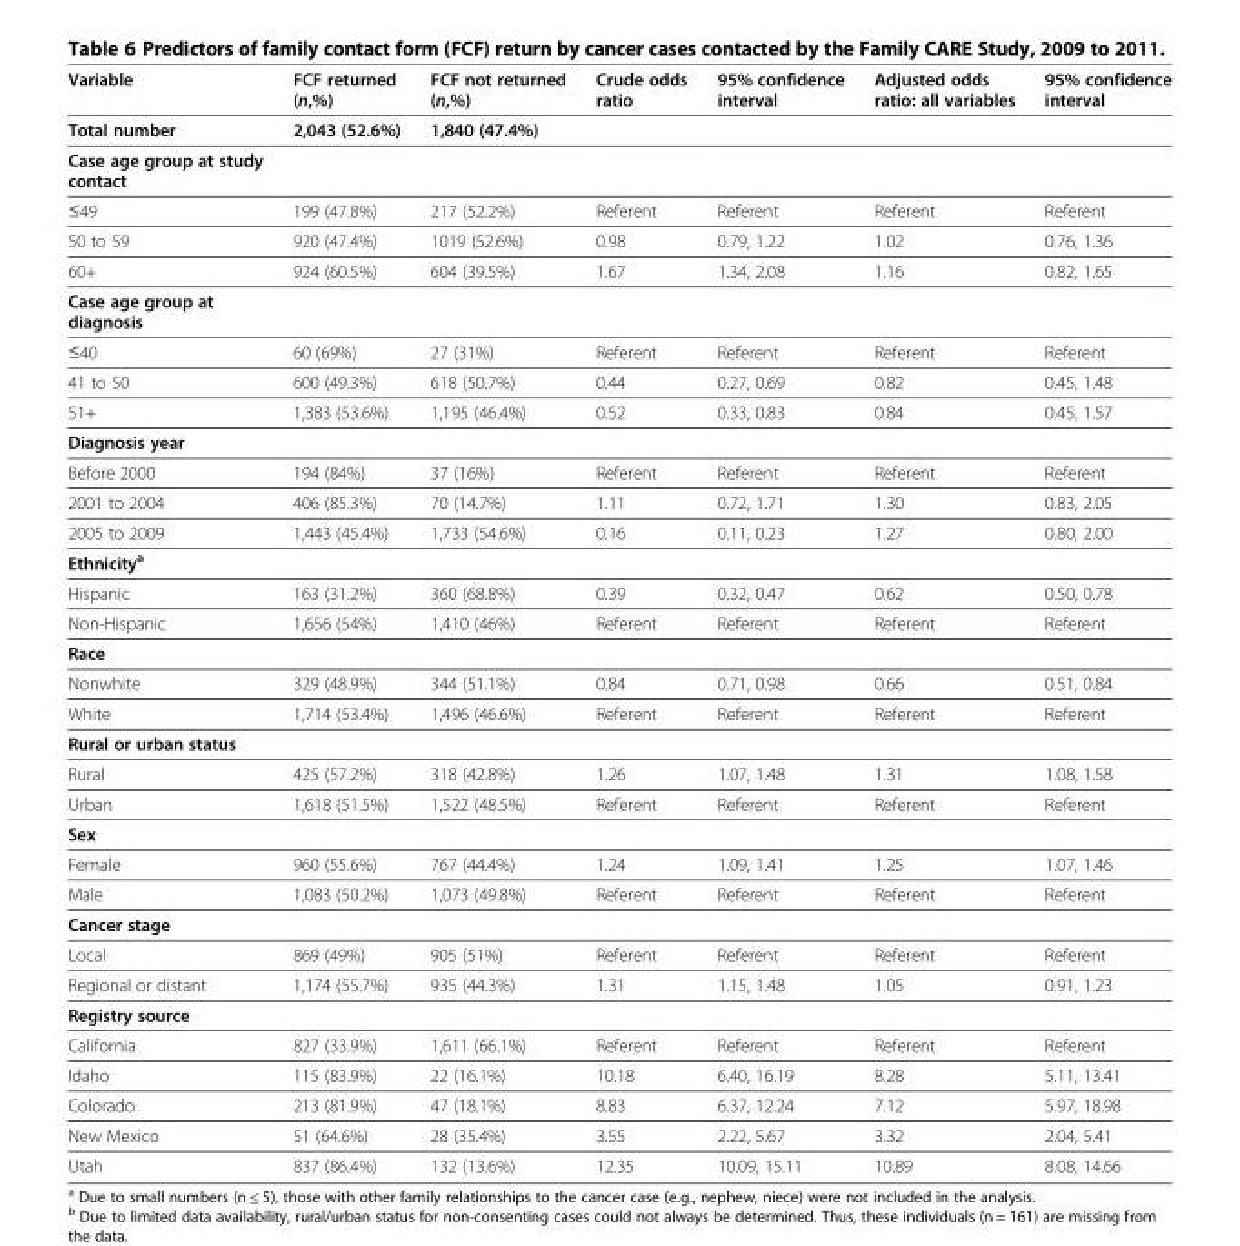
<table><thead><tr><td>Variable</td><td>FCF returned (n,%)</td><td>FCF not returned (n,%)</td><td>Crude odds ratio</td><td>95% confidence interval</td><td>Adjusted odds ratio: all variables</td><td>95% confidence interval</td></tr></thead><tbody><tr><td>Total number</td><td>2,043 (52.6%)</td><td>1,840 (47.4%)</td><td></td><td></td><td></td><td></td></tr><tr><td colspan="7">Case age group at study contact</td></tr><tr><td>≤49</td><td>199 (47.8%)</td><td>217 (52.2%)</td><td>Referent</td><td>Referent</td><td>Referent</td><td>Referent</td></tr><tr><td>50 to 59</td><td>920 (47.4%)</td><td>1019 (52.6%)</td><td>0.98</td><td>0.79, 1.22</td><td>1.02</td><td>0.76, 1.36</td></tr><tr><td>60+</td><td>924 (60.5%)</td><td>604 (39.5%)</td><td>1.67</td><td>1.34, 2.08</td><td>1.16</td><td>0.82, 1.65</td></tr><tr><td colspan="7">Case age group at diagnosis</td></tr><tr><td>≤40</td><td>60 (69%)</td><td>27 (31%)</td><td>Referent</td><td>Referent</td><td>Referent</td><td>Referent</td></tr><tr><td>41 to 50</td><td>600 (49.3%)</td><td>618 (50.7%)</td><td>0.44</td><td>0.27, 0.69</td><td>0.82</td><td>0.45, 1.48</td></tr><tr><td>51+</td><td>1,383 (53.6%)</td><td>1,195 (46.4%)</td><td>0.52</td><td>0.33, 0.83</td><td>0.84</td><td>0.45, 1.57</td></tr><tr><td colspan="7">Diagnosis year</td></tr><tr><td>Before 2000</td><td>194 (84%)</td><td>37 (16%)</td><td>Referent</td><td>Referent</td><td>Referent</td><td>Referent</td></tr><tr><td>2001 to 2004</td><td>406 (85.3%)</td><td>70 (14.7%)</td><td>1.11</td><td>0.72, 1.71</td><td>1.30</td><td>0.83, 2.05</td></tr><tr><td>2005 to 2009</td><td>1,443 (45.4%)</td><td>1,733 (54.6%)</td><td>0.16</td><td>0.11, 0.23</td><td>1.27</td><td>0.80, 2.00</td></tr><tr><td colspan="7">Ethnicity<sup>a</sup></td></tr><tr><td>Hispanic</td><td>163 (31.2%)</td><td>360 (68.8%)</td><td>0.39</td><td>0.32, 0.47</td><td>0.62</td><td>0.50, 0.78</td></tr><tr><td>Non-Hispanic</td><td>1,656 (54%)</td><td>1,410 (46%)</td><td>Referent</td><td>Referent</td><td>Referent</td><td>Referent</td></tr><tr><td colspan="7">Race</td></tr><tr><td>Nonwhite</td><td>329 (48.9%)</td><td>344 (51.1%)</td><td>0.84</td><td>0.71, 0.98</td><td>0.66</td><td>0.51, 0.84</td></tr><tr><td>White</td><td>1,714 (53.4%)</td><td>1,496 (46.6%)</td><td>Referent</td><td>Referent</td><td>Referent</td><td>Referent</td></tr><tr><td colspan="7">Rural or urban status</td></tr><tr><td>Rural</td><td>425 (57.2%)</td><td>318 (42.8%)</td><td>1.26</td><td>1.07, 1.48</td><td>1.31</td><td>1.08, 1.58</td></tr><tr><td>Urban</td><td>1,618 (51.5%)</td><td>1,522 (48.5%)</td><td>Referent</td><td>Referent</td><td>Referent</td><td>Referent</td></tr><tr><td colspan="7">Sex</td></tr><tr><td>Female</td><td>960 (55.6%)</td><td>767 (44.4%)</td><td>1.24</td><td>1.09, 1.41</td><td>1.25</td><td>1.07, 1.46</td></tr><tr><td>Male</td><td>1,083 (50.2%)</td><td>1,073 (49.8%)</td><td>Referent</td><td>Referent</td><td>Referent</td><td>Referent</td></tr><tr><td colspan="7">Cancer stage</td></tr><tr><td>Local</td><td>869 (49%)</td><td>905 (51%)</td><td>Referent</td><td>Referent</td><td>Referent</td><td>Referent</td></tr><tr><td>Regional or distant</td><td>1,174 (55.7%)</td><td>935 (44.3%)</td><td>1.31</td><td>1.15, 1.48</td><td>1.05</td><td>0.91, 1.23</td></tr><tr><td colspan="7">Registry source</td></tr><tr><td>California</td><td>827 (33.9%)</td><td>1,611 (66.1%)</td><td>Referent</td><td>Referent</td><td>Referent</td><td>Referent</td></tr><tr><td>Idaho</td><td>115 (83.9%)</td><td>22 (16.1%)</td><td>10.18</td><td>6.40, 16.19</td><td>8.28</td><td>5.11, 13.41</td></tr><tr><td>Colorado</td><td>213 (81.9%)</td><td>47 (18.1%)</td><td>8.83</td><td>6.37, 12.24</td><td>7.12</td><td>5.97, 18.98</td></tr><tr><td>New Mexico</td><td>51 (64.6%)</td><td>28 (35.4%)</td><td>3.55</td><td>2.22, 5.67</td><td>3.32</td><td>2.04, 5.41</td></tr><tr><td>Utah</td><td>837 (86.4%)</td><td>132 (13.6%)</td><td>12.35</td><td>10.09, 15.11</td><td>10.89</td><td>8.08, 14.66</td></tr></tbody></table>